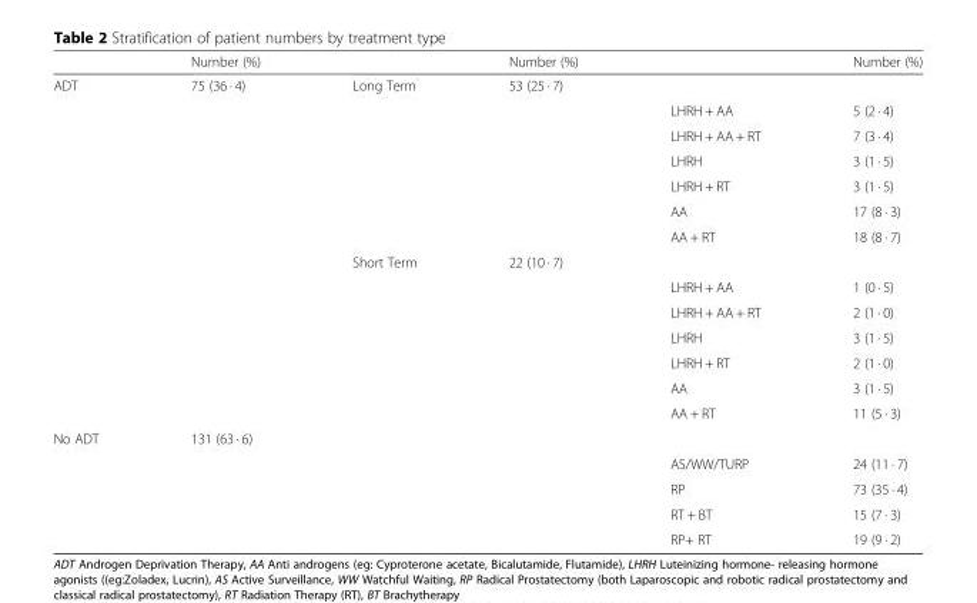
<table><thead><tr><td></td><td>Number (%)</td><td></td><td>Number (%)</td><td></td><td>Number (%)</td></tr></thead><tbody><tr><td rowspan="14">ADT</td><td>75 (36 · 4)</td><td>Long Term</td><td>53 (25 · 7)</td><td></td><td></td></tr><tr><td></td><td></td><td></td><td>LHRH + AA</td><td>5 (2 · 4)</td></tr><tr><td></td><td></td><td></td><td>LHRH + AA + RT</td><td>7 (3 · 4)</td></tr><tr><td></td><td></td><td></td><td>LHRH</td><td>3 (1 · 5)</td></tr><tr><td></td><td></td><td></td><td>LHRH + RT</td><td>3 (1 · 5)</td></tr><tr><td></td><td></td><td></td><td>AA</td><td>17 (8 · 3)</td></tr><tr><td></td><td></td><td></td><td>AA + RT</td><td>18 (8 · 7)</td></tr><tr><td></td><td>Short Term</td><td>22 (10 · 7)</td><td></td><td></td></tr><tr><td></td><td></td><td></td><td>LHRH + AA</td><td>1 (0 · 5)</td></tr><tr><td></td><td></td><td></td><td>LHRH + AA + RT</td><td>2 (1 · 0)</td></tr><tr><td></td><td></td><td></td><td>LHRH</td><td>3 (1 · 5)</td></tr><tr><td></td><td></td><td></td><td>LHRH + RT</td><td>2 (1 · 0)</td></tr><tr><td></td><td></td><td></td><td>AA</td><td>3 (1 · 5)</td></tr><tr><td></td><td></td><td></td><td>AA + RT</td><td>11 (5 · 3)</td></tr><tr><td rowspan="5">No ADT</td><td>131 (63 · 6)</td><td></td><td></td><td></td><td></td></tr><tr><td></td><td></td><td></td><td>AS/WW/TURP</td><td>24 (11 · 7)</td></tr><tr><td></td><td></td><td></td><td>RP</td><td>73 (35 · 4)</td></tr><tr><td></td><td></td><td></td><td>RT + BT</td><td>15 (7 · 3)</td></tr><tr><td></td><td></td><td></td><td>RP+ RT</td><td>19 (9 · 2)</td></tr></tbody></table>